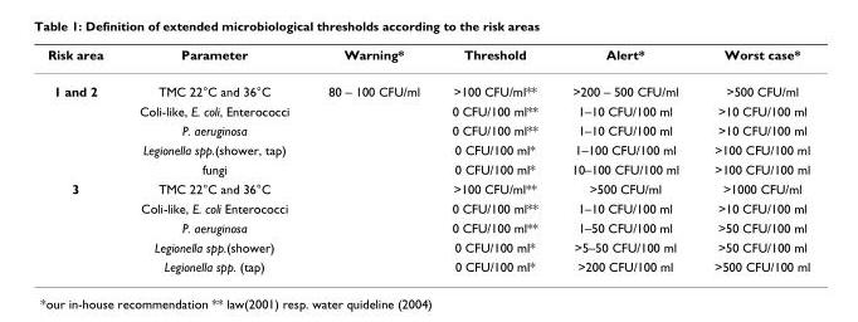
<table><thead><tr><td>Risk area</td><td>Parameter</td><td>Warning*</td><td>Threshold</td><td>Alert*</td><td>Worst case*</td></tr></thead><tbody><tr><td rowspan="5">1 and 2</td><td>TMC 22°C and 36°C</td><td>80 – 100 CFU/ml</td><td>&gt;100 CFU/ml**</td><td>&gt;200 – 500 CFU/ml</td><td>&gt;500 CFU/ml</td></tr><tr><td>Coli-like, E. coli, Enterococci</td><td></td><td>0 CFU/100 ml**</td><td>1–10 CFU/100 ml</td><td>&gt;10 CFU/100 ml</td></tr><tr><td>P. aeruginosa</td><td></td><td>0 CFU/100 ml**</td><td>1–10 CFU/100 ml</td><td>&gt;10 CFU/100 ml</td></tr><tr><td>Legionella spp.(shower, tap)</td><td></td><td>0 CFU/100 ml*</td><td>1–100 CFU/100 ml</td><td>&gt;100 CFU/100 ml</td></tr><tr><td>fungi</td><td></td><td>0 CFU/100 ml*</td><td>10–100 CFU/100 ml</td><td>&gt;100 CFU/100 ml</td></tr><tr><td rowspan="5">3</td><td>TMC 22°C and 36°C</td><td></td><td>&gt;100 CFU/ml**</td><td>&gt;500 CFU/ml</td><td>&gt;1000 CFU/ml</td></tr><tr><td>Coli-like, E. coli Enterococci</td><td></td><td>0 CFU/100 ml**</td><td>1–10 CFU/100 ml</td><td>&gt;10 CFU/100 ml</td></tr><tr><td>P. aeruginosa</td><td></td><td>0 CFU/100 ml**</td><td>1–50 CFU/100 ml</td><td>&gt;50 CFU/100 ml</td></tr><tr><td>Legionella spp.(shower)</td><td></td><td>0 CFU/100 ml*</td><td>&gt;5–50 CFU/100 ml</td><td>&gt;50 CFU/100 ml</td></tr><tr><td>Legionella spp. (tap)</td><td></td><td>0 CFU/100 ml*</td><td>&gt;200 CFU/100 ml</td><td>&gt;500 CFU/100 ml</td></tr></tbody></table>